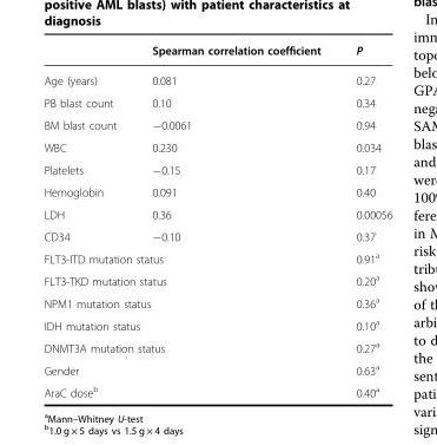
<table><thead><tr><td></td><td>Spearman correlation coefficient</td><td>P</td></tr></thead><tbody><tr><td>Age (years)</td><td>0.081</td><td>0.27</td></tr><tr><td>PB blast count</td><td>0.10</td><td>0.34</td></tr><tr><td>BM blast count</td><td>−0.0061</td><td>0.94</td></tr><tr><td>WBC</td><td>0.230</td><td>0.034</td></tr><tr><td>Platelets</td><td>−0.15</td><td>0.17</td></tr><tr><td>Hemoglobin</td><td>0.091</td><td>0.40</td></tr><tr><td>LDH</td><td>0.36</td><td>0.00056</td></tr><tr><td>CD34</td><td>−0.10</td><td>0.37</td></tr><tr><td colspan="2">FLT3-ITD mutation status</td><td>0.91<sup>a</sup></td></tr><tr><td colspan="2">FLT3-TKD mutation status</td><td>0.20<sup>a</sup></td></tr><tr><td colspan="2">NPM1 mutation status</td><td>0.36<sup>a</sup></td></tr><tr><td colspan="2">IDH mutation status</td><td>0.10<sup>a</sup></td></tr><tr><td colspan="2">DNMT3A mutation status</td><td>0.27<sup>a</sup></td></tr><tr><td colspan="2">Gender</td><td>0.63<sup>a</sup></td></tr><tr><td colspan="2">AraC dose<sup>b</sup></td><td>0.40<sup>a</sup></td></tr></tbody></table>